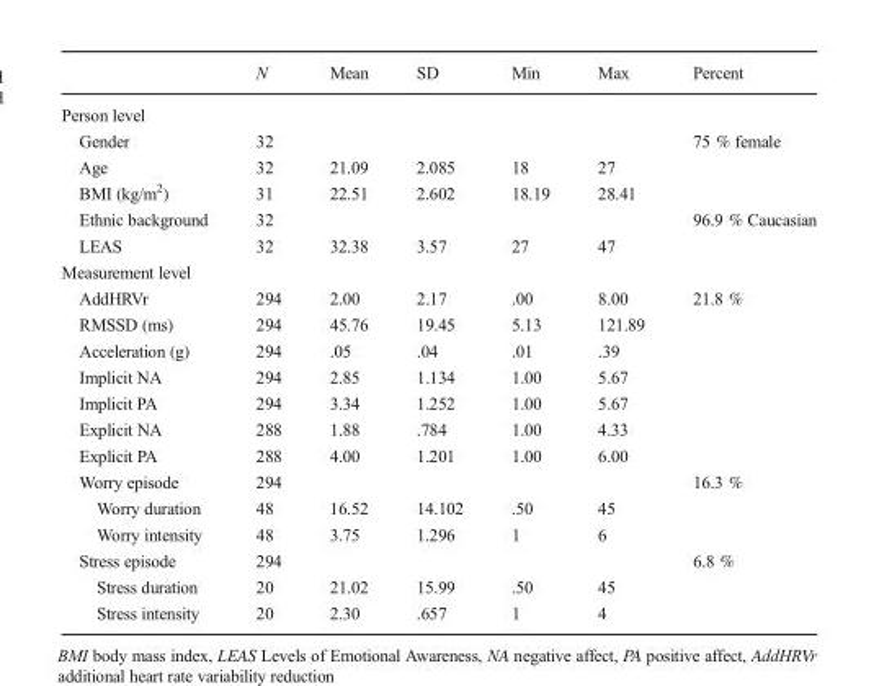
<table><thead><tr><td></td><td>N</td><td>Mean</td><td>SD</td><td>Min</td><td>Max</td><td>Percent</td></tr></thead><tbody><tr><td colspan="7">Person level</td></tr><tr><td>Gender</td><td>32</td><td></td><td></td><td></td><td></td><td>75 % female</td></tr><tr><td>Age</td><td>32</td><td>21.09</td><td>2.085</td><td>18</td><td>27</td><td></td></tr><tr><td>BMI (kg/m<sup>2</sup>)</td><td>31</td><td>22.51</td><td>2.602</td><td>18.19</td><td>28.41</td><td></td></tr><tr><td>Ethnic background</td><td>32</td><td></td><td></td><td></td><td></td><td>96.9 % Caucasian</td></tr><tr><td>LEAS</td><td>32</td><td>32.38</td><td>3.57</td><td>27</td><td>47</td><td></td></tr><tr><td colspan="7">Measurement level</td></tr><tr><td>AddHRVr</td><td>294</td><td>2.00</td><td>2.17</td><td>.00</td><td>8.00</td><td>21.8 %</td></tr><tr><td>RMSSD (ms)</td><td>294</td><td>45.76</td><td>19.45</td><td>5.13</td><td>121.89</td><td></td></tr><tr><td>Acceleration (g)</td><td>294</td><td>.05</td><td>.04</td><td>.01</td><td>.39</td><td></td></tr><tr><td>Implicit NA</td><td>294</td><td>2.85</td><td>1.134</td><td>1.00</td><td>5.67</td><td></td></tr><tr><td>Implicit PA</td><td>294</td><td>3.34</td><td>1.252</td><td>1.00</td><td>5.67</td><td></td></tr><tr><td>Explicit NA</td><td>288</td><td>1.88</td><td>.784</td><td>1.00</td><td>4.33</td><td></td></tr><tr><td>Explicit PA</td><td>288</td><td>4.00</td><td>1.201</td><td>1.00</td><td>6.00</td><td></td></tr><tr><td>Worry episode</td><td>294</td><td></td><td></td><td></td><td></td><td>16.3 %</td></tr><tr><td>Worry duration</td><td>48</td><td>16.52</td><td>14.102</td><td>.50</td><td>45</td><td></td></tr><tr><td>Worry intensity</td><td>48</td><td>3.75</td><td>1.296</td><td>1</td><td>6</td><td></td></tr><tr><td>Stress episode</td><td>294</td><td></td><td></td><td></td><td></td><td>6.8 %</td></tr><tr><td>Stress duration</td><td>20</td><td>21.02</td><td>15.99</td><td>.50</td><td>45</td><td></td></tr><tr><td>Stress intensity</td><td>20</td><td>2.30</td><td>.657</td><td>1</td><td>4</td><td></td></tr></tbody></table>